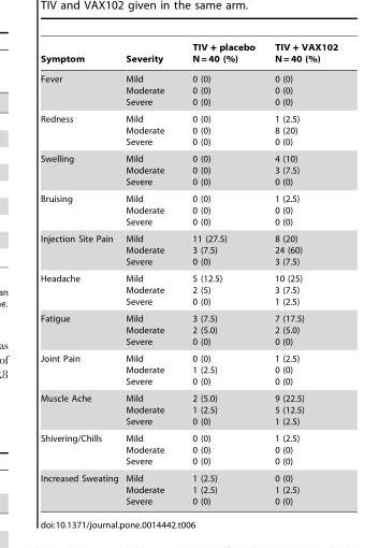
<table><thead><tr><td>Symptom</td><td>Severity</td><td>TIV + placebo N = 40 (%)</td><td>TIV + VAX102 N = 40 (%)</td></tr></thead><tbody><tr><td>Fever</td><td>Mild Moderate Severe</td><td>0 (0) 0 (0) 0 (0)</td><td>0 (0) 0 (0) 0 (0)</td></tr><tr><td>Redness</td><td>Mild Moderate Severe</td><td>0 (0) 0 (0) 0 (0)</td><td>1 (2.5) 8 (20) 0 (0)</td></tr><tr><td>Swelling</td><td>Mild Moderate Severe</td><td>0 (0) 0 (0) 0 (0)</td><td>4 (10) 3 (7.5) 0 (0)</td></tr><tr><td>Bruising</td><td>Mild Moderate Severe</td><td>0 (0) 0 (0) 0 (0)</td><td>1 (2.5) 0 (0) 0 (0)</td></tr><tr><td>Injection Site Pain</td><td>Mild Moderate Severe</td><td>11 (27.5) 3 (7.5) 0 (0)</td><td>8 (20) 24 (60) 3 (7.5)</td></tr><tr><td>Headache</td><td>Mild Moderate Severe</td><td>5 (12.5) 2 (5) 0 (0)</td><td>10 (25) 3 (7.5) 1 (2.5)</td></tr><tr><td>Fatigue</td><td>Mild Moderate Severe</td><td>3 (7.5) 2 (5.0) 0 (0)</td><td>7 (17.5) 2 (5.0) 0 (0)</td></tr><tr><td>Joint Pain</td><td>Mild Moderate Severe</td><td>0 (0) 1 (2.5) 0 (0)</td><td>1 (2.5) 0 (0) 0 (0)</td></tr><tr><td>Muscle Ache</td><td>Mild Moderate Severe</td><td>2 (5.0) 1 (2.5) 0 (0)</td><td>9 (22.5) 5 (12.5) 1 (2.5)</td></tr><tr><td>Shivering/Chills</td><td>Mild Moderate Severe</td><td>0 (0) 0 (0) 0 (0)</td><td>1 (2.5) 0 (0) 0 (0)</td></tr><tr><td>Increased Sweating</td><td>Mild Moderate Severe</td><td>1 (2.5) 1 (2.5) 0 (0)</td><td>0 (0) 1 (2.5) 0 (0)</td></tr></tbody></table>